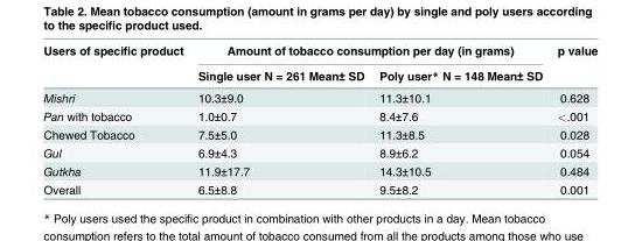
<table><thead><tr><td rowspan="2">Users of specific product</td><td colspan="2">Amount of tobacco consumption per day (in grams)</td><td rowspan="2">p value</td></tr><tr><td>Single user N = 261 Mean± SD</td><td>Poly user* N = 148 Mean± SD</td></tr></thead><tbody><tr><td>Mishri</td><td>10.3±9.0</td><td>11.3±10.1</td><td>0.628</td></tr><tr><td>Pan with tobacco</td><td>1.0±0.7</td><td>8.4±7.6</td><td>&lt;.001</td></tr><tr><td>Chewed Tobacco</td><td>7.5±5.0</td><td>11.3±8.5</td><td>0.028</td></tr><tr><td>Gul</td><td>6.9±4.3</td><td>8.9±6.2</td><td>0.054</td></tr><tr><td>Gutkha</td><td>11.9±17.7</td><td>14.3±10.5</td><td>0.484</td></tr><tr><td>Overall</td><td>6.5±8.8</td><td>9.5±8.2</td><td>0.001</td></tr></tbody></table>